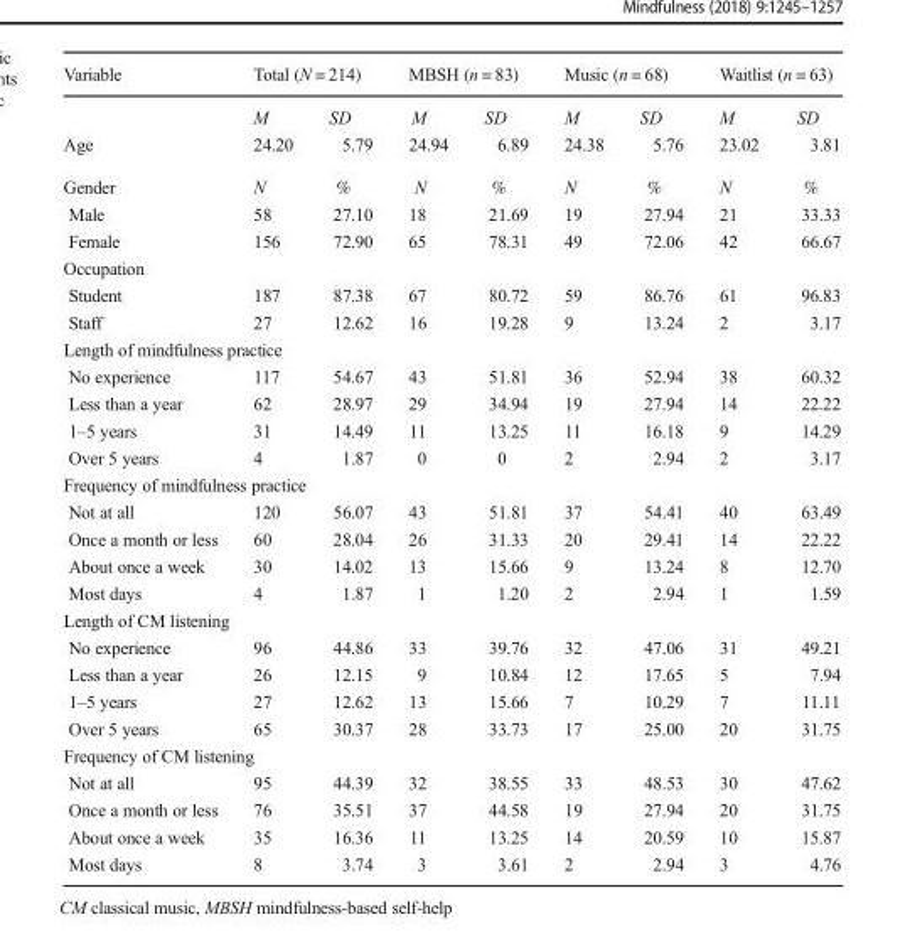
<table><thead><tr><td rowspan="2">Variable</td><td colspan="2">Total (N = 214)</td><td colspan="2">MBSH (n = 83)</td><td colspan="2">Music (n = 68)</td><td colspan="2">Waitlist (n = 63)</td></tr><tr><td>M</td><td>SD</td><td>M</td><td>SD</td><td>M</td><td>SD</td><td>M</td><td>SD</td></tr></thead><tbody><tr><td>Age</td><td>24.20</td><td>5.79</td><td>24.94</td><td>6.89</td><td>24.38</td><td>5.76</td><td>23.02</td><td>3.81</td></tr><tr><td>Gender</td><td>N</td><td>%</td><td>N</td><td>%</td><td>N</td><td>%</td><td>N</td><td>%</td></tr><tr><td>Male</td><td>58</td><td>27.10</td><td>18</td><td>21.69</td><td>19</td><td>27.94</td><td>21</td><td>33.33</td></tr><tr><td>Female</td><td>156</td><td>72.90</td><td>65</td><td>78.31</td><td>49</td><td>72.06</td><td>42</td><td>66.67</td></tr><tr><td colspan="9">Occupation</td></tr><tr><td>Student</td><td>187</td><td>87.38</td><td>67</td><td>80.72</td><td>59</td><td>86.76</td><td>61</td><td>96.83</td></tr><tr><td>Staff</td><td>27</td><td>12.62</td><td>16</td><td>19.28</td><td>9</td><td>13.24</td><td>2</td><td>3.17</td></tr><tr><td colspan="9">Length of mindfulness practice</td></tr><tr><td>No experience</td><td>117</td><td>54.67</td><td>43</td><td>51.81</td><td>36</td><td>52.94</td><td>38</td><td>60.32</td></tr><tr><td>Less than a year</td><td>62</td><td>28.97</td><td>29</td><td>34.94</td><td>19</td><td>27.94</td><td>14</td><td>22.22</td></tr><tr><td>1–5 years</td><td>31</td><td>14.49</td><td>11</td><td>13.25</td><td>11</td><td>16.18</td><td>9</td><td>14.29</td></tr><tr><td>Over 5 years</td><td>4</td><td>1.87</td><td>0</td><td>0</td><td>2</td><td>2.94</td><td>2</td><td>3.17</td></tr><tr><td colspan="9">Frequency of mindfulness practice</td></tr><tr><td>Not at all</td><td>120</td><td>56.07</td><td>43</td><td>51.81</td><td>37</td><td>54.41</td><td>40</td><td>63.49</td></tr><tr><td>Once a month or less</td><td>60</td><td>28.04</td><td>26</td><td>31.33</td><td>20</td><td>29.41</td><td>14</td><td>22.22</td></tr><tr><td>About once a week</td><td>30</td><td>14.02</td><td>13</td><td>15.66</td><td>9</td><td>13.24</td><td>8</td><td>12.70</td></tr><tr><td>Most days</td><td>4</td><td>1.87</td><td>1</td><td>1.20</td><td>2</td><td>2.94</td><td>1</td><td>1.59</td></tr><tr><td colspan="9">Length of CM listening</td></tr><tr><td>No experience</td><td>96</td><td>44.86</td><td>33</td><td>39.76</td><td>32</td><td>47.06</td><td>31</td><td>49.21</td></tr><tr><td>Less than a year</td><td>26</td><td>12.15</td><td>9</td><td>10.84</td><td>12</td><td>17.65</td><td>5</td><td>7.94</td></tr><tr><td>1–5 years</td><td>27</td><td>12.62</td><td>13</td><td>15.66</td><td>7</td><td>10.29</td><td>7</td><td>11.11</td></tr><tr><td>Over 5 years</td><td>65</td><td>30.37</td><td>28</td><td>33.73</td><td>17</td><td>25.00</td><td>20</td><td>31.75</td></tr><tr><td colspan="9">Frequency of CM listening</td></tr><tr><td>Not at all</td><td>95</td><td>44.39</td><td>32</td><td>38.55</td><td>33</td><td>48.53</td><td>30</td><td>47.62</td></tr><tr><td>Once a month or less</td><td>76</td><td>35.51</td><td>37</td><td>44.58</td><td>19</td><td>27.94</td><td>20</td><td>31.75</td></tr><tr><td>About once a week</td><td>35</td><td>16.36</td><td>11</td><td>13.25</td><td>14</td><td>20.59</td><td>10</td><td>15.87</td></tr><tr><td>Most days</td><td>8</td><td>3.74</td><td>3</td><td>3.61</td><td>2</td><td>2.94</td><td>3</td><td>4.76</td></tr></tbody></table>